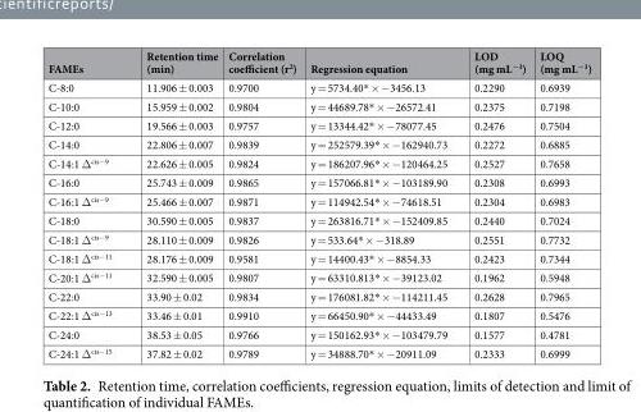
<table><thead><tr><td>FAMEs</td><td>Retention time (min)</td><td>Correlation coefficient (r<sup>2</sup>)</td><td>Regression equation</td><td>LOD (mg mL<sup>−1</sup>)</td><td>LOQ (mg mL<sup>−1</sup>)</td></tr></thead><tbody><tr><td>C-8:0</td><td>11.906 ± 0.003</td><td>0.9700</td><td>y = 5734.40* × −3456.13</td><td>0.2290</td><td>0.6939</td></tr><tr><td>C-10:0</td><td>15.959 ± 0.002</td><td>0.9804</td><td>y = 44689.78* × −26572.41</td><td>0.2375</td><td>0.7198</td></tr><tr><td>C-12:0</td><td>19.566 ± 0.003</td><td>0.9757</td><td>y = 13344.42* × −78077.45</td><td>0.2476</td><td>0.7504</td></tr><tr><td>C-14:0</td><td>22.806 ± 0.007</td><td>0.9839</td><td>y = 252579.39* × −162940.73</td><td>0.2272</td><td>0.6885</td></tr><tr><td>C-14:1 Δ<sup>cis−9</sup></td><td>22.626 ± 0.005</td><td>0.9824</td><td>y = 186207.96* × −120464.25</td><td>0.2527</td><td>0.7658</td></tr><tr><td>C-16:0</td><td>25.743 ± 0.009</td><td>0.9865</td><td>y = 157066.81* × −103189.90</td><td>0.2308</td><td>0.6993</td></tr><tr><td>C-16:1 Δ<sup>cis−9</sup></td><td>25.466 ± 0.007</td><td>0.9871</td><td>y = 114942.54* × −74618.51</td><td>0.2304</td><td>0.6983</td></tr><tr><td>C-18:0</td><td>30.590 ± 0.005</td><td>0.9837</td><td>y = 263816.71* × −152409.85</td><td>0.2440</td><td>0.7024</td></tr><tr><td>C-18:1 Δ<sup>cis−9</sup></td><td>28.110 ± 0.009</td><td>0.9826</td><td>y = 533.64* × −318.89</td><td>0.2551</td><td>0.7732</td></tr><tr><td>C-18:1 Δ<sup>cis−11</sup></td><td>28.176 ± 0.009</td><td>0.9581</td><td>y = 14400.43* × −8854.33</td><td>0.2423</td><td>0.7344</td></tr><tr><td>C-20:1 Δ<sup>cis−11</sup></td><td>32.590 ± 0.005</td><td>0.9807</td><td>y = 63310.813* × −39123.02</td><td>0.1962</td><td>0.5948</td></tr><tr><td>C-22:0</td><td>33.90 ± 0.02</td><td>0.9834</td><td>y = 176081.82* × −114211.45</td><td>0.2628</td><td>0.7965</td></tr><tr><td>C-22:1 Δ<sup>cis−13</sup></td><td>33.46 ± 0.01</td><td>0.9910</td><td>y = 66450.90* × −44433.49</td><td>0.1807</td><td>0.5476</td></tr><tr><td>C-24:0</td><td>38.53 ± 0.05</td><td>0.9766</td><td>y = 150162.93* × −103479.79</td><td>0.1577</td><td>0.4781</td></tr><tr><td>C-24:1 Δ<sup>cis−15</sup></td><td>37.82 ± 0.02</td><td>0.9789</td><td>y = 34888.70* × −20911.09</td><td>0.2333</td><td>0.6999</td></tr></tbody></table>